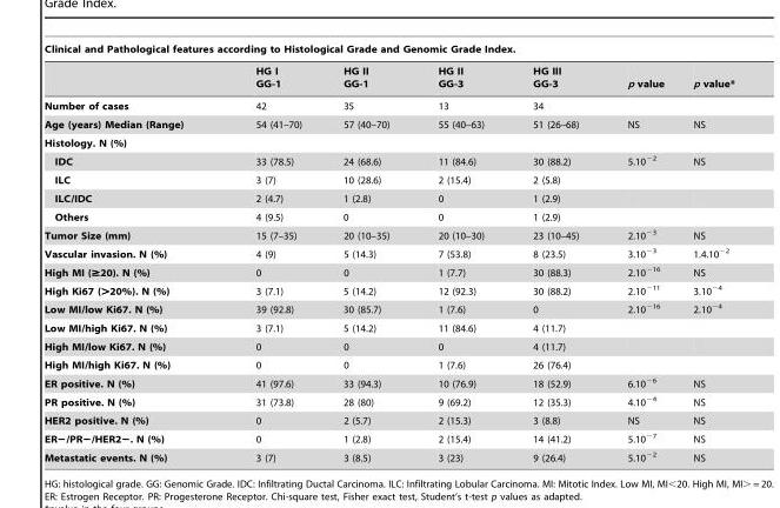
<table><thead><tr><td colspan="7">Clinical and Pathological features according to Histological Grade and Genomic Grade Index.</td></tr><tr><td></td><td>HG I GG-1</td><td>HG II GG-1</td><td>HG II GG-3</td><td>HG III GG-3</td><td>p value</td><td>p value*</td></tr></thead><tbody><tr><td>Number of cases</td><td>42</td><td>35</td><td>13</td><td>34</td><td></td><td></td></tr><tr><td>Age (years) Median (Range)</td><td>54 (41–70)</td><td>57 (40–70)</td><td>55 (40–63)</td><td>51 (26–68)</td><td>NS</td><td>NS</td></tr><tr><td colspan="7">Histology. N (%)</td></tr><tr><td>IDC</td><td>33 (78.5)</td><td>24 (68.6)</td><td>11 (84.6)</td><td>30 (88.2)</td><td>5.10<sup>−2</sup></td><td>NS</td></tr><tr><td>ILC</td><td>3 (7)</td><td>10 (28.6)</td><td>2 (15.4)</td><td>2 (5.8)</td><td></td><td></td></tr><tr><td>ILC/IDC</td><td>2 (4.7)</td><td>1 (2.8)</td><td>0</td><td>1 (2.9)</td><td></td><td></td></tr><tr><td>Others</td><td>4 (9.5)</td><td>0</td><td>0</td><td>1 (2.9)</td><td></td><td></td></tr><tr><td>Tumor Size (mm)</td><td>15 (7–35)</td><td>20 (10–35)</td><td>20 (10–30)</td><td>23 (10–45)</td><td>2.10<sup>−3</sup></td><td>NS</td></tr><tr><td>Vascular invasion. N (%)</td><td>4 (9)</td><td>5 (14.3)</td><td>7 (53.8)</td><td>8 (23.5)</td><td>3.10<sup>−3</sup></td><td>1.4.10<sup>−2</sup></td></tr><tr><td>High MI (≥20). N (%)</td><td>0</td><td>0</td><td>1 (7.7)</td><td>30 (88.3)</td><td>2.10<sup>−16</sup></td><td>NS</td></tr><tr><td>High Ki67 (&gt;20%). N (%)</td><td>3 (7.1)</td><td>5 (14.2)</td><td>12 (92.3)</td><td>30 (88.2)</td><td>2.10<sup>−11</sup></td><td>3.10<sup>−4</sup></td></tr><tr><td>Low MI/low Ki67. N (%)</td><td>39 (92.8)</td><td>30 (85.7)</td><td>1 (7.6)</td><td>0</td><td>2.10<sup>−16</sup></td><td>2.10<sup>−4</sup></td></tr><tr><td>Low MI/high Ki67. N (%)</td><td>3 (7.1)</td><td>5 (14.2)</td><td>11 (84.6)</td><td>4 (11.7)</td><td></td><td></td></tr><tr><td>High MI/low Ki67. N (%)</td><td>0</td><td>0</td><td>0</td><td>4 (11.7)</td><td></td><td></td></tr><tr><td>High MI/high Ki67. N (%)</td><td>0</td><td>0</td><td>1 (7.6)</td><td>26 (76.4)</td><td></td><td></td></tr><tr><td>ER positive. N (%)</td><td>41 (97.6)</td><td>33 (94.3)</td><td>10 (76.9)</td><td>18 (52.9)</td><td>6.10<sup>−6</sup></td><td>NS</td></tr><tr><td>PR positive. N (%)</td><td>31 (73.8)</td><td>28 (80)</td><td>9 (69.2)</td><td>12 (35.3)</td><td>4.10<sup>−4</sup></td><td>NS</td></tr><tr><td>HER2 positive. N (%)</td><td>0</td><td>2 (5.7)</td><td>2 (15.3)</td><td>3 (8.8)</td><td>NS</td><td>NS</td></tr><tr><td>ER−/PR−/HER2−. N (%)</td><td>0</td><td>1 (2.8)</td><td>2 (15.4)</td><td>14 (41.2)</td><td>5.10<sup>−7</sup></td><td>NS</td></tr><tr><td>Metastatic events. N (%)</td><td>3 (7)</td><td>3 (8.5)</td><td>3 (23)</td><td>9 (26.4)</td><td>5.10<sup>−2</sup></td><td>NS</td></tr></tbody></table>